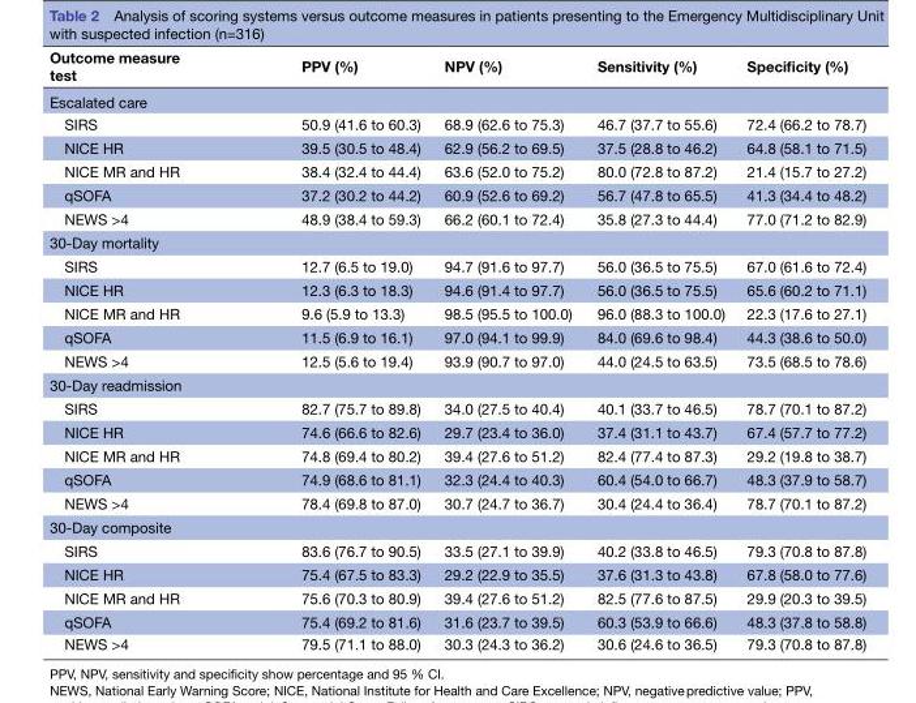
<table><thead><tr><td>Outcome measure test</td><td>PPV (%)</td><td>NPV (%)</td><td>Sensitivity (%)</td><td>Specificity (%)</td></tr></thead><tbody><tr><td colspan="5">Escalated care</td></tr><tr><td>SIRS</td><td>50.9 (41.6 to 60.3)</td><td>68.9 (62.6 to 75.3)</td><td>46.7 (37.7 to 55.6)</td><td>72.4 (66.2 to 78.7)</td></tr><tr><td>NICE HR</td><td>39.5 (30.5 to 48.4)</td><td>62.9 (56.2 to 69.5)</td><td>37.5 (28.8 to 46.2)</td><td>64.8 (58.1 to 71.5)</td></tr><tr><td>NICE MR and HR</td><td>38.4 (32.4 to 44.4)</td><td>63.6 (52.0 to 75.2)</td><td>80.0 (72.8 to 87.2)</td><td>21.4 (15.7 to 27.2)</td></tr><tr><td>qSOFA</td><td>37.2 (30.2 to 44.2)</td><td>60.9 (52.6 to 69.2)</td><td>56.7 (47.8 to 65.5)</td><td>41.3 (34.4 to 48.2)</td></tr><tr><td>NEWS &gt;4</td><td>48.9 (38.4 to 59.3)</td><td>66.2 (60.1 to 72.4)</td><td>35.8 (27.3 to 44.4)</td><td>77.0 (71.2 to 82.9)</td></tr><tr><td colspan="5">30-Day mortality</td></tr><tr><td>SIRS</td><td>12.7 (6.5 to 19.0)</td><td>94.7 (91.6 to 97.7)</td><td>56.0 (36.5 to 75.5)</td><td>67.0 (61.6 to 72.4)</td></tr><tr><td>NICE HR</td><td>12.3 (6.3 to 18.3)</td><td>94.6 (91.4 to 97.7)</td><td>56.0 (36.5 to 75.5)</td><td>65.6 (60.2 to 71.1)</td></tr><tr><td>NICE MR and HR</td><td>9.6 (5.9 to 13.3)</td><td>98.5 (95.5 to 100.0)</td><td>96.0 (88.3 to 100.0)</td><td>22.3 (17.6 to 27.1)</td></tr><tr><td>qSOFA</td><td>11.5 (6.9 to 16.1)</td><td>97.0 (94.1 to 99.9)</td><td>84.0 (69.6 to 98.4)</td><td>44.3 (38.6 to 50.0)</td></tr><tr><td>NEWS &gt;4</td><td>12.5 (5.6 to 19.4)</td><td>93.9 (90.7 to 97.0)</td><td>44.0 (24.5 to 63.5)</td><td>73.5 (68.5 to 78.6)</td></tr><tr><td colspan="5">30-Day readmission</td></tr><tr><td>SIRS</td><td>82.7 (75.7 to 89.8)</td><td>34.0 (27.5 to 40.4)</td><td>40.1 (33.7 to 46.5)</td><td>78.7 (70.1 to 87.2)</td></tr><tr><td>NICE HR</td><td>74.6 (66.6 to 82.6)</td><td>29.7 (23.4 to 36.0)</td><td>37.4 (31.1 to 43.7)</td><td>67.4 (57.7 to 77.2)</td></tr><tr><td>NICE MR and HR</td><td>74.8 (69.4 to 80.2)</td><td>39.4 (27.6 to 51.2)</td><td>82.4 (77.4 to 87.3)</td><td>29.2 (19.8 to 38.7)</td></tr><tr><td>qSOFA</td><td>74.9 (68.6 to 81.1)</td><td>32.3 (24.4 to 40.3)</td><td>60.4 (54.0 to 66.7)</td><td>48.3 (37.9 to 58.7)</td></tr><tr><td>NEWS &gt;4</td><td>78.4 (69.8 to 87.0)</td><td>30.7 (24.7 to 36.7)</td><td>30.4 (24.4 to 36.4)</td><td>78.7 (70.1 to 87.2)</td></tr><tr><td colspan="5">30-Day composite</td></tr><tr><td>SIRS</td><td>83.6 (76.7 to 90.5)</td><td>33.5 (27.1 to 39.9)</td><td>40.2 (33.8 to 46.5)</td><td>79.3 (70.8 to 87.8)</td></tr><tr><td>NICE HR</td><td>75.4 (67.5 to 83.3)</td><td>29.2 (22.9 to 35.5)</td><td>37.6 (31.3 to 43.8)</td><td>67.8 (58.0 to 77.6)</td></tr><tr><td>NICE MR and HR</td><td>75.6 (70.3 to 80.9)</td><td>39.4 (27.6 to 51.2)</td><td>82.5 (77.6 to 87.5)</td><td>29.9 (20.3 to 39.5)</td></tr><tr><td>qSOFA</td><td>75.4 (69.2 to 81.6)</td><td>31.6 (23.7 to 39.5)</td><td>60.3 (53.9 to 66.6)</td><td>48.3 (37.8 to 58.8)</td></tr><tr><td>NEWS &gt;4</td><td>79.5 (71.1 to 88.0)</td><td>30.3 (24.3 to 36.2)</td><td>30.6 (24.6 to 36.5)</td><td>79.3 (70.8 to 87.8)</td></tr></tbody></table>